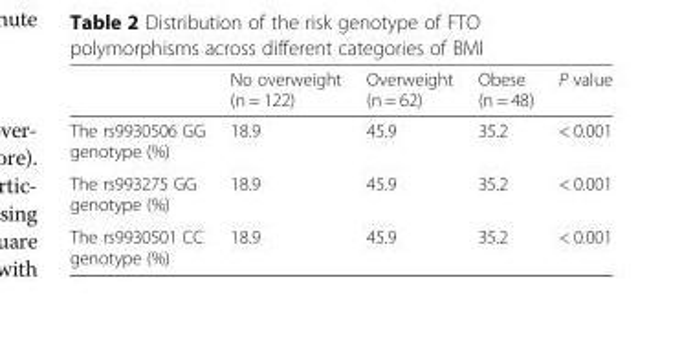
<table><thead><tr><td></td><td>No overweight (n = 122)</td><td>Overweight (n = 62)</td><td>Obese (n = 48)</td><td>P value</td></tr></thead><tbody><tr><td>The rs9930506 GG genotype (%)</td><td>18.9</td><td>45.9</td><td>35.2</td><td>&lt; 0.001</td></tr><tr><td>The rs993275 GG genotype (%)</td><td>18.9</td><td>45.9</td><td>35.2</td><td>&lt; 0.001</td></tr><tr><td>The rs9930501 CC genotype (%)</td><td>18.9</td><td>45.9</td><td>35.2</td><td>&lt; 0.001</td></tr></tbody></table>